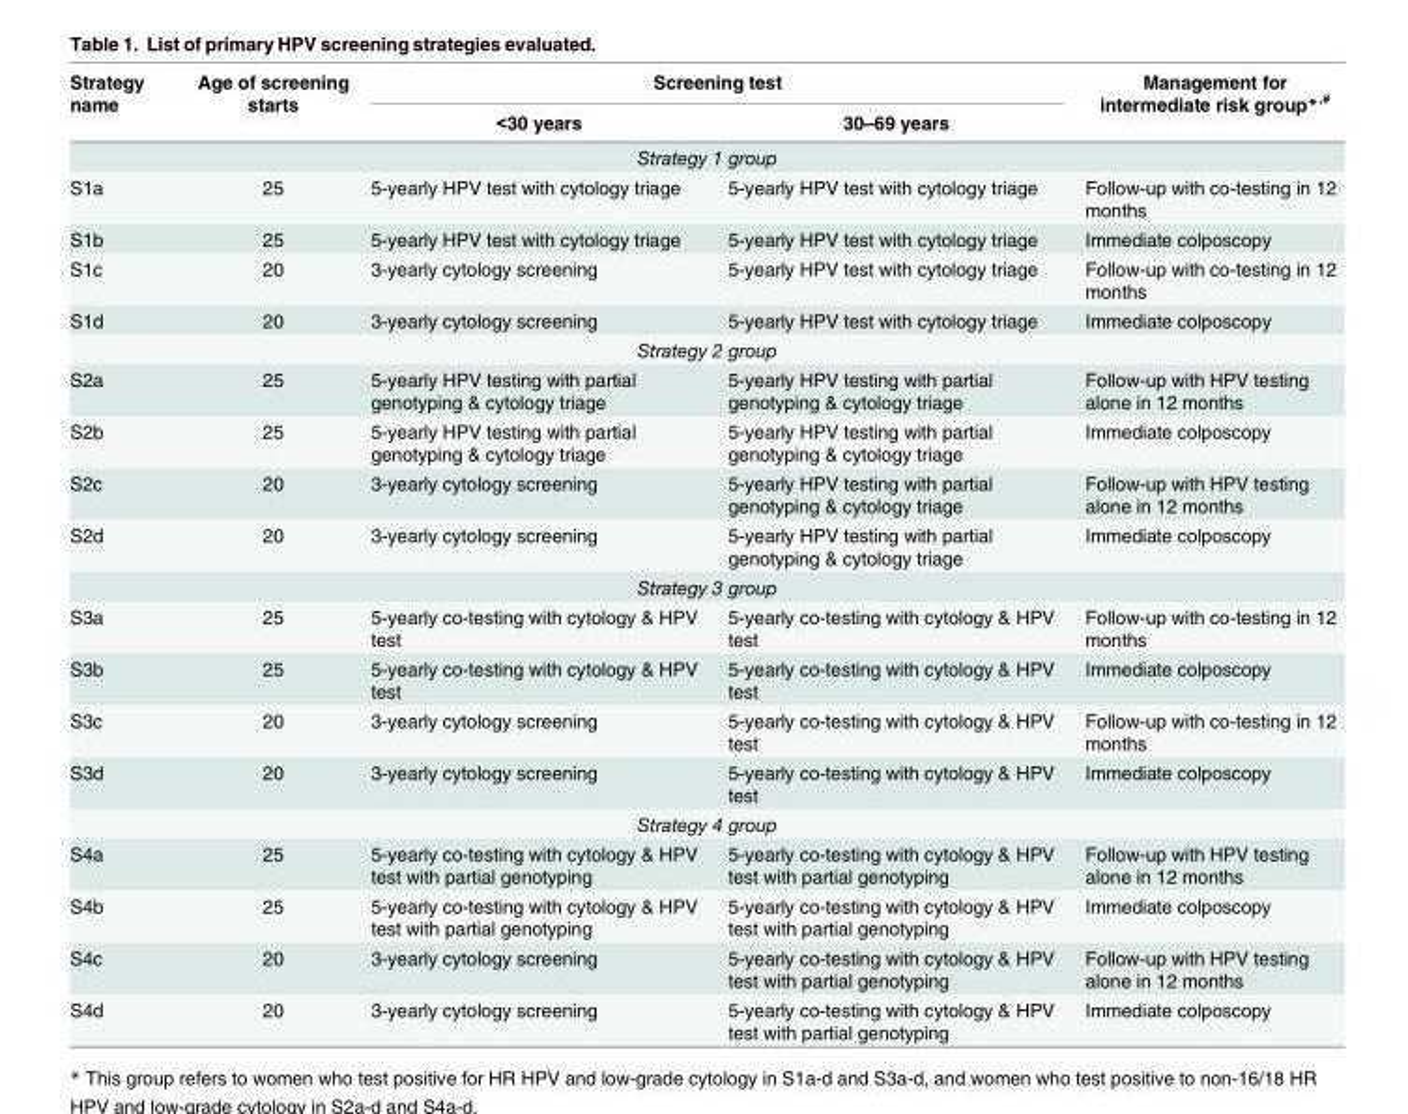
<table><thead><tr><td rowspan="2">Strategy name</td><td rowspan="2">Age of screening starts</td><td colspan="2">Screening test</td><td rowspan="2">Management for intermediate risk group*<sup>,#</sup></td></tr><tr><td>&lt;30 years</td><td>30–69 years</td></tr></thead><tbody><tr><td colspan="5">Strategy 1 group</td></tr><tr><td>S1a</td><td>25</td><td>5-yearly HPV test with cytology triage</td><td>5-yearly HPV test with cytology triage</td><td>Follow-up with co-testing in 12 months</td></tr><tr><td>S1b</td><td>25</td><td>5-yearly HPV test with cytology triage</td><td>5-yearly HPV test with cytology triage</td><td>Immediate colposcopy</td></tr><tr><td>S1c</td><td>20</td><td>3-yearly cytology screening</td><td>5-yearly HPV test with cytology triage</td><td>Follow-up with co-testing in 12 months</td></tr><tr><td>S1d</td><td>20</td><td>3-yearly cytology screening</td><td>5-yearly HPV test with cytology triage</td><td>Immediate colposcopy</td></tr><tr><td colspan="5">Strategy 2 group</td></tr><tr><td>S2a</td><td>25</td><td>5-yearly HPV testing with partial genotyping &amp; cytology triage</td><td>5-yearly HPV testing with partial genotyping &amp; cytology triage</td><td>Follow-up with HPV testing alone in 12 months</td></tr><tr><td>S2b</td><td>25</td><td>5-yearly HPV testing with partial genotyping &amp; cytology triage</td><td>5-yearly HPV testing with partial genotyping &amp; cytology triage</td><td>Immediate colposcopy</td></tr><tr><td>S2c</td><td>20</td><td>3-yearly cytology screening</td><td>5-yearly HPV testing with partial genotyping &amp; cytology triage</td><td>Follow-up with HPV testing alone in 12 months</td></tr><tr><td>S2d</td><td>20</td><td>3-yearly cytology screening</td><td>5-yearly HPV testing with partial genotyping &amp; cytology triage</td><td>Immediate colposcopy</td></tr><tr><td colspan="5">Strategy 3 group</td></tr><tr><td>S3a</td><td>25</td><td>5-yearly co-testing with cytology &amp; HPV test</td><td>5-yearly co-testing with cytology &amp; HPV test</td><td>Follow-up with co-testing in 12 months</td></tr><tr><td>S3b</td><td>25</td><td>5-yearly co-testing with cytology &amp; HPV test</td><td>5-yearly co-testing with cytology &amp; HPV test</td><td>Immediate colposcopy</td></tr><tr><td>S3c</td><td>20</td><td>3-yearly cytology screening</td><td>5-yearly co-testing with cytology &amp; HPV test</td><td>Follow-up with co-testing in 12 months</td></tr><tr><td>S3d</td><td>20</td><td>3-yearly cytology screening</td><td>5-yearly co-testing with cytology &amp; HPV test</td><td>Immediate colposcopy</td></tr><tr><td colspan="5">Strategy 4 group</td></tr><tr><td>S4a</td><td>25</td><td>5-yearly co-testing with cytology &amp; HPV test with partial genotyping</td><td>5-yearly co-testing with cytology &amp; HPV test with partial genotyping</td><td>Follow-up with HPV testing alone in 12 months</td></tr><tr><td>S4b</td><td>25</td><td>5-yearly co-testing with cytology &amp; HPV test with partial genotyping</td><td>5-yearly co-testing with cytology &amp; HPV test with partial genotyping</td><td>Immediate colposcopy</td></tr><tr><td>S4c</td><td>20</td><td>3-yearly cytology screening</td><td>5-yearly co-testing with cytology &amp; HPV test with partial genotyping</td><td>Follow-up with HPV testing alone in 12 months</td></tr><tr><td>S4d</td><td>20</td><td>3-yearly cytology screening</td><td>5-yearly co-testing with cytology &amp; HPV test with partial genotyping</td><td>Immediate colposcopy</td></tr></tbody></table>